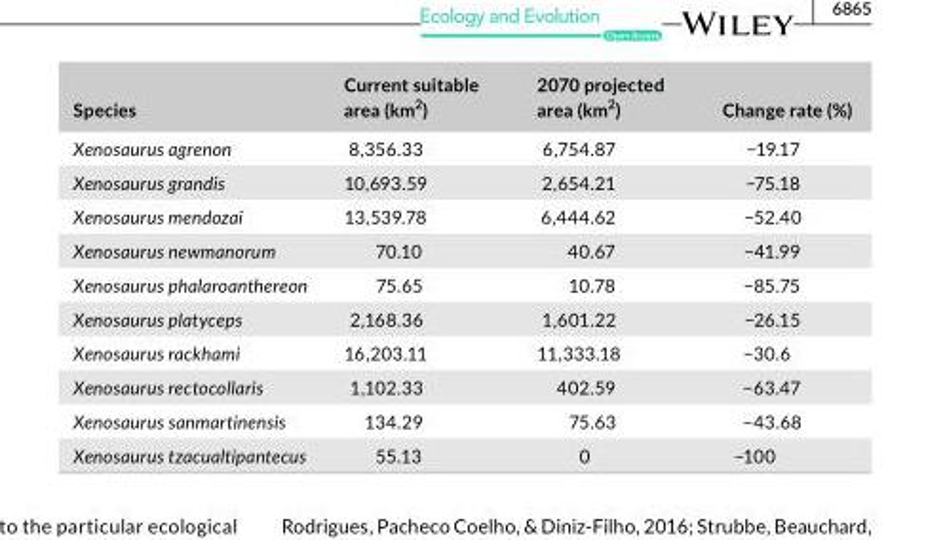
<table><thead><tr><td>Species</td><td>Current suitable area (km<sup>2</sup>)</td><td>2070 projected area (km<sup>2</sup>)</td><td>Change rate (%)</td></tr></thead><tbody><tr><td>Xenosaurus agrenon</td><td>8,356.33</td><td>6,754.87</td><td>−19.17</td></tr><tr><td>Xenosaurus grandis</td><td>10,693.59</td><td>2,654.21</td><td>−75.18</td></tr><tr><td>Xenosaurus mendozai</td><td>13,539.78</td><td>6,444.62</td><td>−52.40</td></tr><tr><td>Xenosaurus newmanorum</td><td>70.10</td><td>40.67</td><td>−41.99</td></tr><tr><td>Xenosaurus phalaroanthereon</td><td>75.65</td><td>10.78</td><td>−85.75</td></tr><tr><td>Xenosaurus platyceps</td><td>2,168.36</td><td>1,601.22</td><td>−26.15</td></tr><tr><td>Xenosaurus rackhami</td><td>16,203.11</td><td>11,333.18</td><td>−30.6</td></tr><tr><td>Xenosaurus rectocollaris</td><td>1,102.33</td><td>402.59</td><td>−63.47</td></tr><tr><td>Xenosaurus sanmartinensis</td><td>134.29</td><td>75.63</td><td>−43.68</td></tr><tr><td>Xenosaurus tzacualtipantecus</td><td>55.13</td><td>0</td><td>−100</td></tr></tbody></table>